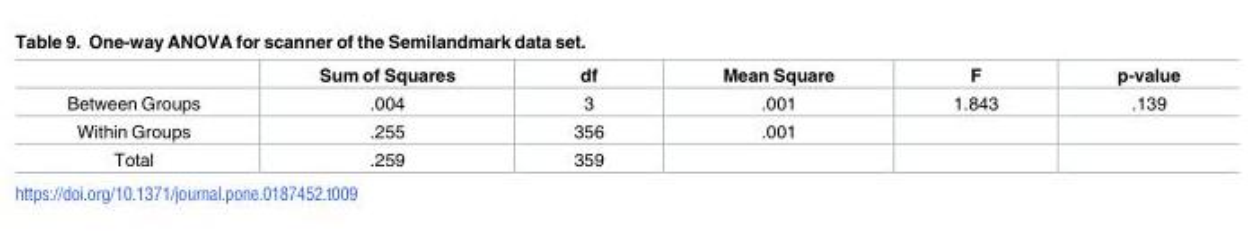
<table><thead><tr><td></td><td>Sum of Squares</td><td>df</td><td>Mean Square</td><td>F</td><td>p-value</td></tr></thead><tbody><tr><td>Between Groups</td><td>.004</td><td>3</td><td>.001</td><td>1.843</td><td>.139</td></tr><tr><td>Within Groups</td><td>.255</td><td>356</td><td>.001</td><td></td><td></td></tr><tr><td>Total</td><td>.259</td><td>359</td><td></td><td></td><td></td></tr></tbody></table>